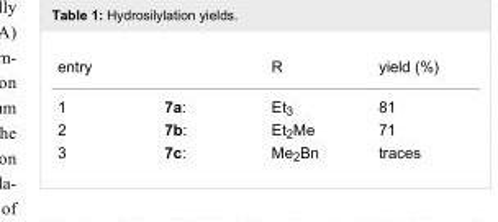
<table><tbody><tr><td>entry</td><td></td><td>R</td><td>yield (%)</td></tr><tr><td>1</td><td>7a:</td><td>Et<sub>3</sub></td><td>81</td></tr><tr><td>2</td><td>7b:</td><td>Et<sub>2</sub>Me</td><td>71</td></tr><tr><td>3</td><td>7c:</td><td>Me<sub>2</sub>Bn</td><td>traces</td></tr></tbody></table>